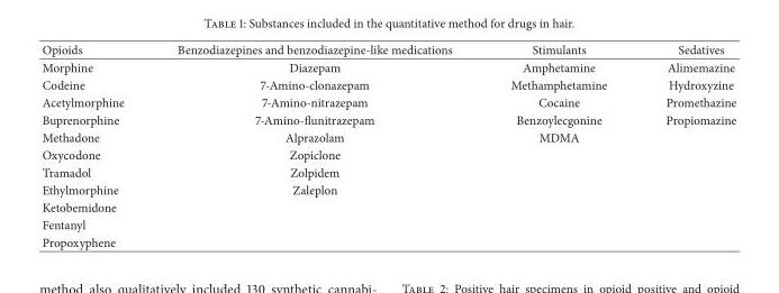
<table><thead><tr><td>Opioids</td><td>Benzodiazepines and benzodiazepine-like medications</td><td>Stimulants</td><td>Sedatives</td></tr></thead><tbody><tr><td>Morphine</td><td>Diazepam</td><td>Amphetamine</td><td>Alimemazine</td></tr><tr><td>Codeine</td><td>7-Amino-clonazepam</td><td>Methamphetamine</td><td>Hydroxyzine</td></tr><tr><td>Acetylmorphine</td><td>7-Amino-nitrazepam</td><td>Cocaine</td><td>Promethazine</td></tr><tr><td>Buprenorphine</td><td>7-Amino-flunitrazepam</td><td>Benzoylecgonine</td><td>Propiomazine</td></tr><tr><td>Methadone</td><td>Alprazolam</td><td>MDMA</td><td></td></tr><tr><td>Oxycodone</td><td>Zopiclone</td><td></td><td></td></tr><tr><td>Tramadol</td><td>Zolpidem</td><td></td><td></td></tr><tr><td>Ethylmorphine</td><td>Zaleplon</td><td></td><td></td></tr><tr><td colspan="4">Ketobemidone</td></tr><tr><td colspan="4">Fentanyl</td></tr><tr><td>Propoxyphene</td><td></td><td></td><td></td></tr></tbody></table>